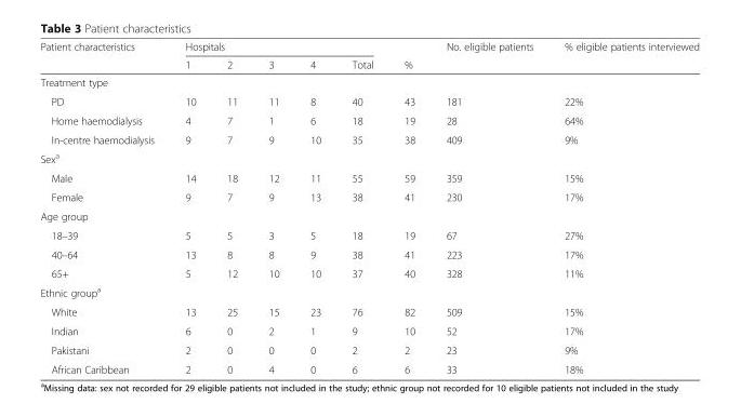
<table><thead><tr><td rowspan="2">Patient characteristics</td><td colspan="5">Hospitals</td><td rowspan="2">%</td><td rowspan="2">No. eligible patients</td><td rowspan="2">% eligible patients interviewed</td></tr><tr><td>1</td><td>2</td><td>3</td><td>4</td><td>Total</td></tr></thead><tbody><tr><td colspan="9">Treatment type</td></tr><tr><td>PD</td><td>10</td><td>11</td><td>11</td><td>8</td><td>40</td><td>43</td><td>181</td><td>22%</td></tr><tr><td>Home haemodialysis</td><td>4</td><td>7</td><td>1</td><td>6</td><td>18</td><td>19</td><td>28</td><td>64%</td></tr><tr><td>In-centre haemodialysis</td><td>9</td><td>7</td><td>9</td><td>10</td><td>35</td><td>38</td><td>409</td><td>9%</td></tr><tr><td colspan="9">Sex<sup>a</sup></td></tr><tr><td>Male</td><td>14</td><td>18</td><td>12</td><td>11</td><td>55</td><td>59</td><td>359</td><td>15%</td></tr><tr><td>Female</td><td>9</td><td>7</td><td>9</td><td>13</td><td>38</td><td>41</td><td>230</td><td>17%</td></tr><tr><td colspan="9">Age group</td></tr><tr><td>18–39</td><td>5</td><td>5</td><td>3</td><td>5</td><td>18</td><td>19</td><td>67</td><td>27%</td></tr><tr><td>40–64</td><td>13</td><td>8</td><td>8</td><td>9</td><td>38</td><td>41</td><td>223</td><td>17%</td></tr><tr><td>65+</td><td>5</td><td>12</td><td>10</td><td>10</td><td>37</td><td>40</td><td>328</td><td>11%</td></tr><tr><td colspan="9">Ethnic group<sup>a</sup></td></tr><tr><td>White</td><td>13</td><td>25</td><td>15</td><td>23</td><td>76</td><td>82</td><td>509</td><td>15%</td></tr><tr><td>Indian</td><td>6</td><td>0</td><td>2</td><td>1</td><td>9</td><td>10</td><td>52</td><td>17%</td></tr><tr><td>Pakistani</td><td>2</td><td>0</td><td>0</td><td>0</td><td>2</td><td>2</td><td>23</td><td>9%</td></tr><tr><td>African Caribbean</td><td>2</td><td>0</td><td>4</td><td>0</td><td>6</td><td>6</td><td>33</td><td>18%</td></tr></tbody></table>